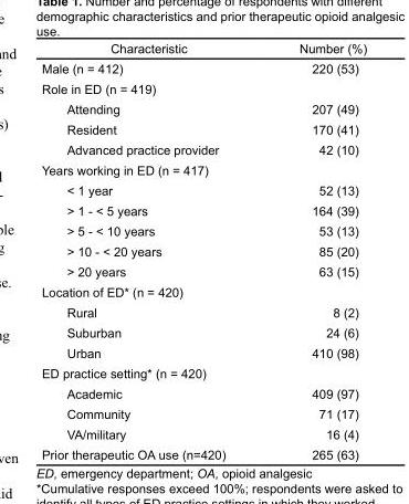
<table><thead><tr><td>Characteristic</td><td>Number (%)</td></tr></thead><tbody><tr><td>Male (n = 412)</td><td>220 (53)</td></tr><tr><td colspan="2">Role in ED (n = 419)</td></tr><tr><td>Attending</td><td>207 (49)</td></tr><tr><td>Resident</td><td>170 (41)</td></tr><tr><td>Advanced practice provider</td><td>42 (10)</td></tr><tr><td colspan="2">Years working in ED (n = 417)</td></tr><tr><td>&lt; 1 year</td><td>52 (13)</td></tr><tr><td>&gt; 1 - &lt; 5 years</td><td>164 (39)</td></tr><tr><td>&gt; 5 - &lt; 10 years</td><td>53 (13)</td></tr><tr><td>&gt; 10 - &lt; 20 years</td><td>85 (20)</td></tr><tr><td>&gt; 20 years</td><td>63 (15)</td></tr><tr><td colspan="2">Location of ED* (n = 420)</td></tr><tr><td>Rural</td><td>8 (2)</td></tr><tr><td>Suburban</td><td>24 (6)</td></tr><tr><td>Urban</td><td>410 (98)</td></tr><tr><td colspan="2">ED practice setting* (n = 420)</td></tr><tr><td>Academic</td><td>409 (97)</td></tr><tr><td>Community</td><td>71 (17)</td></tr><tr><td>VA/military</td><td>16 (4)</td></tr><tr><td>Prior therapeutic OA use (n=420)</td><td>265 (63)</td></tr></tbody></table>